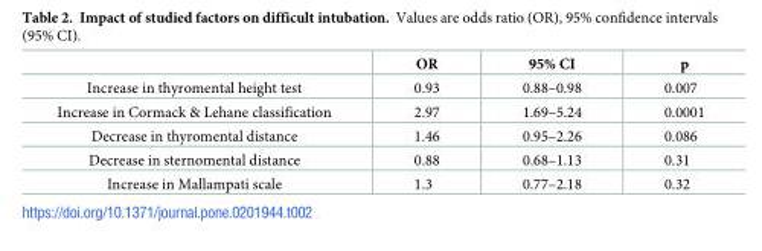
<table><thead><tr><td></td><td>OR</td><td>95% CI</td><td>p</td></tr></thead><tbody><tr><td>Increase in thyromental height test</td><td>0.93</td><td>0.88–0.98</td><td>0.007</td></tr><tr><td>Increase in Cormack &amp; Lehane classification</td><td>2.97</td><td>1.69–5.24</td><td>0.0001</td></tr><tr><td>Decrease in thyromental distance</td><td>1.46</td><td>0.95–2.26</td><td>0.086</td></tr><tr><td>Decrease in sternomental distance</td><td>0.88</td><td>0.68–1.13</td><td>0.31</td></tr><tr><td>Increase in Mallampati scale</td><td>1.3</td><td>0.77–2.18</td><td>0.32</td></tr></tbody></table>